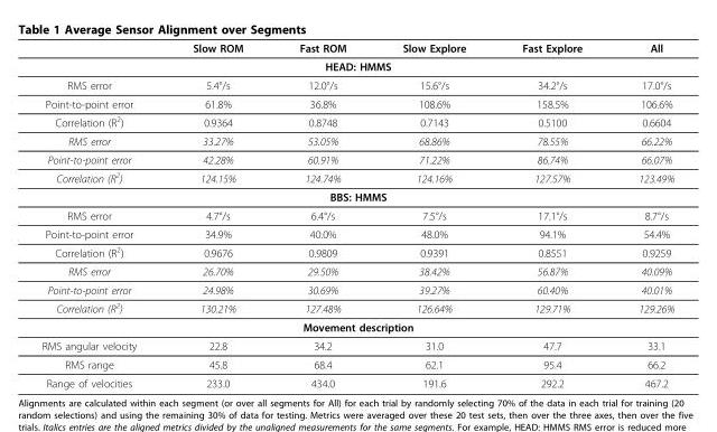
<table><thead><tr><td></td><td>Slow ROM</td><td>Fast ROM</td><td>Slow Explore</td><td>Fast Explore</td><td>All</td></tr></thead><tbody><tr><td colspan="6">HEAD: HMMS</td></tr><tr><td>RMS error</td><td>5.4°/s</td><td>12.0°/s</td><td>15.6°/s</td><td>34.2°/s</td><td>17.0°/s</td></tr><tr><td>Point-to-point error</td><td>61.8%</td><td>36.8%</td><td>108.6%</td><td>158.5%</td><td>106.6%</td></tr><tr><td>Correlation (R<sup>2</sup>)</td><td>0.9364</td><td>0.8748</td><td>0.7143</td><td>0.5100</td><td>0.6604</td></tr><tr><td>RMS error</td><td>33.27%</td><td>53.05%</td><td>68.86%</td><td>78.55%</td><td>66.22%</td></tr><tr><td>Point-to-point error</td><td>42.28%</td><td>60.91%</td><td>71.22%</td><td>86.74%</td><td>66.07%</td></tr><tr><td>Correlation (R<sup>2</sup>)</td><td>124.15%</td><td>124.74%</td><td>124.16%</td><td>127.57%</td><td>123.49%</td></tr><tr><td colspan="6">BBS: HMMS</td></tr><tr><td>RMS error</td><td>4.7°/s</td><td>6.4°/s</td><td>7.5°/s</td><td>17.1°/s</td><td>8.7°/s</td></tr><tr><td>Point-to-point error</td><td>34.9%</td><td>40.0%</td><td>48.0%</td><td>94.1%</td><td>54.4%</td></tr><tr><td>Correlation (R<sup>2</sup>)</td><td>0.9676</td><td>0.9809</td><td>0.9391</td><td>0.8551</td><td>0.9259</td></tr><tr><td>RMS error</td><td>26.70%</td><td>29.50%</td><td>38.42%</td><td>56.87%</td><td>40.09%</td></tr><tr><td>Point-to-point error</td><td>24.98%</td><td>30.69%</td><td>39.27%</td><td>60.40%</td><td>40.01%</td></tr><tr><td>Correlation (R<sup>2</sup>)</td><td>130.21%</td><td>127.48%</td><td>126.64%</td><td>129.71%</td><td>129.26%</td></tr><tr><td colspan="6">Movement description</td></tr><tr><td>RMS angular velocity</td><td>22.8</td><td>34.2</td><td>31.0</td><td>47.7</td><td>33.1</td></tr><tr><td>RMS range</td><td>45.8</td><td>68.4</td><td>62.1</td><td>95.4</td><td>66.2</td></tr><tr><td>Range of velocities</td><td>233.0</td><td>434.0</td><td>191.6</td><td>292.2</td><td>467.2</td></tr></tbody></table>